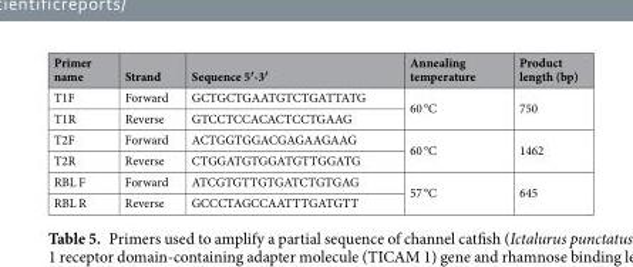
<table><thead><tr><td>Primer name</td><td>Strand</td><td>Sequence 5′-3′</td><td>Annealing temperature</td><td>Product length (bp)</td></tr></thead><tbody><tr><td>T1F</td><td>Forward</td><td>GCTGCTGAATGTCTGATTATG</td><td rowspan="2">60 °C</td><td rowspan="2">750</td></tr><tr><td>T1R</td><td>Reverse</td><td>GTCCTCCACACTCCTGAAG</td></tr><tr><td>T2F</td><td>Forward</td><td>ACTGGTGGACGAGAAGAAG</td><td rowspan="2">60 °C</td><td rowspan="2">1462</td></tr><tr><td>T2R</td><td>Reverse</td><td>CTGGATGTGGATGTTGGATG</td></tr><tr><td>RBL F</td><td>Forward</td><td>ATCGTGTTGTGATCTGTGAG</td><td rowspan="2">57 °C</td><td rowspan="2">645</td></tr><tr><td>RBL R</td><td>Reverse</td><td>GCCCTAGCCAATTTGATGTT</td></tr></tbody></table>